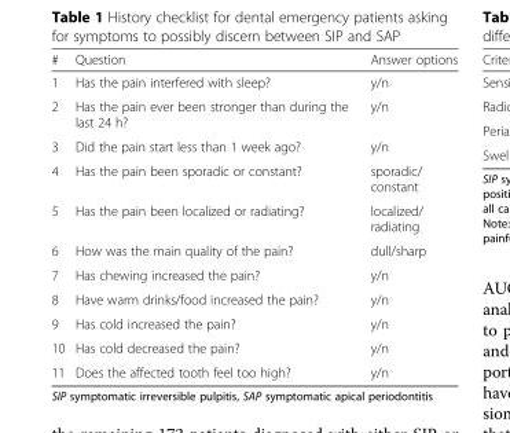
<table><thead><tr><td>#</td><td>Question</td><td>Answer options</td></tr></thead><tbody><tr><td>1</td><td>Has the pain interfered with sleep?</td><td>y/n</td></tr><tr><td>2</td><td>Has the pain ever been stronger than during the last 24 h?</td><td>y/n</td></tr><tr><td>3</td><td>Did the pain start less than 1 week ago?</td><td>y/n</td></tr><tr><td>4</td><td>Has the pain been sporadic or constant?</td><td>sporadic/ constant</td></tr><tr><td>5</td><td>Has the pain been localized or radiating?</td><td>localized/ radiating</td></tr><tr><td>6</td><td>How was the main quality of the pain?</td><td>dull/sharp</td></tr><tr><td>7</td><td>Has chewing increased the pain?</td><td>y/n</td></tr><tr><td>8</td><td>Have warm drinks/food increased the pain?</td><td>y/n</td></tr><tr><td>9</td><td>Has cold increased the pain?</td><td>y/n</td></tr><tr><td>10</td><td>Has cold decreased the pain?</td><td>y/n</td></tr><tr><td>11</td><td>Does the affected tooth feel too high?</td><td>y/n</td></tr></tbody></table>